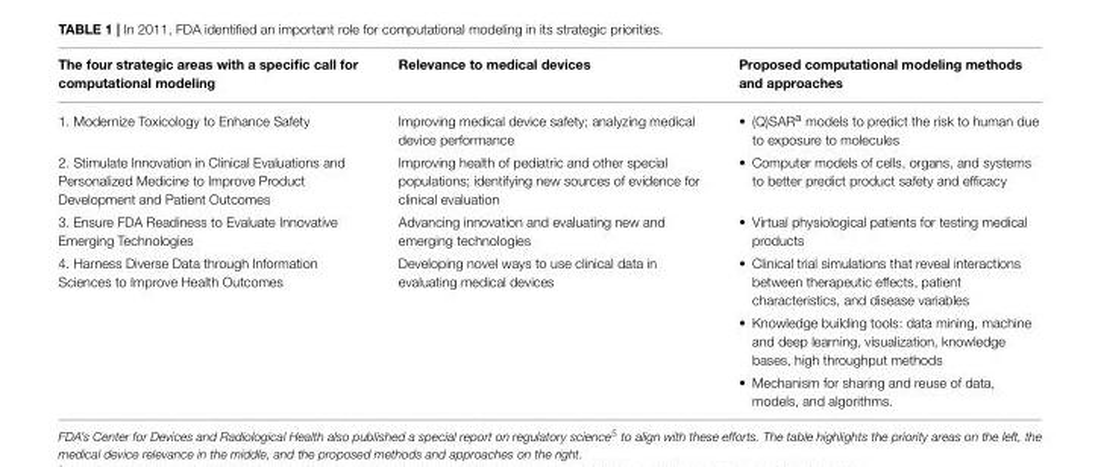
<table><thead><tr><td>The four strategic areas with a specific call for computational modeling</td><td>Relevance to medical devices</td><td>Proposed computational modeling methods and approaches</td></tr></thead><tbody><tr><td>1. Modernize Toxicology to Enhance Safety</td><td>Improving medical device safety; analyzing medical device performance</td><td>• (Q)SAR<sup>a</sup> models to predict the risk to human due to exposure to molecules</td></tr><tr><td>2. Stimulate Innovation in Clinical Evaluations and Personalized Medicine to Improve Product Development and Patient Outcomes</td><td>Improving health of pediatric and other special populations; identifying new sources of evidence for clinical evaluation</td><td>• Computer models of cells, organs, and systems to better predict product safety and efficacy</td></tr><tr><td>3. Ensure FDA Readiness to Evaluate Innovative Emerging Technologies</td><td>Advancing innovation and evaluating new and emerging technologies</td><td>• Virtual physiological patients for testing medical products</td></tr><tr><td rowspan="3">4. Harness Diverse Data through Information Sciences to Improve Health Outcomes</td><td>Developing novel ways to use clinical data in evaluating medical devices</td><td>• Clinical trial simulations that reveal interactions between therapeutic effects, patient characteristics, and disease variables</td></tr><tr><td></td><td>• Knowledge building tools: data mining, machine and deep learning, visualization, knowledge bases, high throughput methods</td></tr><tr><td></td><td>• Mechanism for sharing and reuse of data, models, and algorithms.</td></tr></tbody></table>